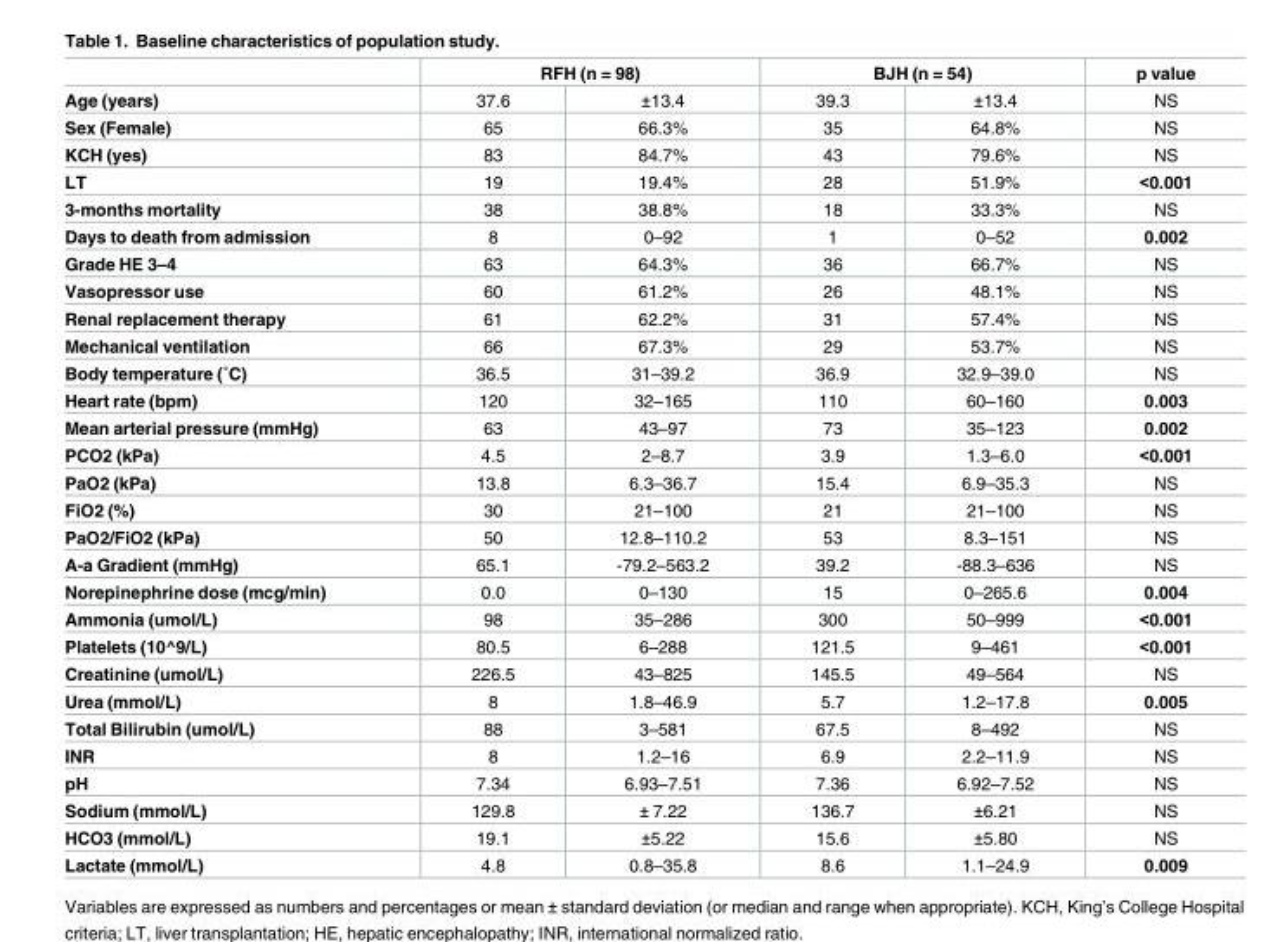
<table><thead><tr><td rowspan="2">Age (years)</td><td colspan="2">RFH (n = 98)</td><td colspan="2">BJH (n = 54)</td><td rowspan="2">p value NS</td></tr><tr><td>37.6</td><td>±13.4</td><td>39.3</td><td>±13.4</td></tr></thead><tbody><tr><td>Sex (Female)</td><td>65</td><td>66.3%</td><td>35</td><td>64.8%</td><td>NS</td></tr><tr><td>KCH (yes)</td><td>83</td><td>84.7%</td><td>43</td><td>79.6%</td><td>NS</td></tr><tr><td>LT</td><td>19</td><td>19.4%</td><td>28</td><td>51.9%</td><td>&lt;0.001</td></tr><tr><td>3-months mortality</td><td>38</td><td>38.8%</td><td>18</td><td>33.3%</td><td>NS</td></tr><tr><td>Days to death from admission</td><td>8</td><td>0–92</td><td>1</td><td>0–52</td><td>0.002</td></tr><tr><td>Grade HE 3–4</td><td>63</td><td>64.3%</td><td>36</td><td>66.7%</td><td>NS</td></tr><tr><td>Vasopressor use</td><td>60</td><td>61.2%</td><td>26</td><td>48.1%</td><td>NS</td></tr><tr><td>Renal replacement therapy</td><td>61</td><td>62.2%</td><td>31</td><td>57.4%</td><td>NS</td></tr><tr><td>Mechanical ventilation</td><td>66</td><td>67.3%</td><td>29</td><td>53.7%</td><td>NS</td></tr><tr><td>Body temperature (˚C)</td><td>36.5</td><td>31–39.2</td><td>36.9</td><td>32.9–39.0</td><td>NS</td></tr><tr><td>Heart rate (bpm)</td><td>120</td><td>32–165</td><td>110</td><td>60–160</td><td>0.003</td></tr><tr><td>Mean arterial pressure (mmHg)</td><td>63</td><td>43–97</td><td>73</td><td>35–123</td><td>0.002</td></tr><tr><td>PCO2 (kPa)</td><td>4.5</td><td>2–8.7</td><td>3.9</td><td>1.3–6.0</td><td>&lt;0.001</td></tr><tr><td>PaO2 (kPa)</td><td>13.8</td><td>6.3–36.7</td><td>15.4</td><td>6.9–35.3</td><td>NS</td></tr><tr><td>FiO2 (%)</td><td>30</td><td>21–100</td><td>21</td><td>21–100</td><td>NS</td></tr><tr><td>PaO2/FiO2 (kPa)</td><td>50</td><td>12.8–110.2</td><td>53</td><td>8.3–151</td><td>NS</td></tr><tr><td>A-a Gradient (mmHg)</td><td>65.1</td><td>-79.2–563.2</td><td>39.2</td><td>-88.3–636</td><td>NS</td></tr><tr><td>Norepinephrine dose (mcg/min)</td><td>0.0</td><td>0–130</td><td>15</td><td>0–265.6</td><td>0.004</td></tr><tr><td>Ammonia (umol/L)</td><td>98</td><td>35–286</td><td>300</td><td>50–999</td><td>&lt;0.001</td></tr><tr><td>Platelets (10^9/L)</td><td>80.5</td><td>6–288</td><td>121.5</td><td>9–461</td><td>&lt;0.001</td></tr><tr><td>Creatinine (umol/L)</td><td>226.5</td><td>43–825</td><td>145.5</td><td>49–564</td><td>NS</td></tr><tr><td>Urea (mmol/L)</td><td>8</td><td>1.8–46.9</td><td>5.7</td><td>1.2–17.8</td><td>0.005</td></tr><tr><td>Total Bilirubin (umol/L)</td><td>88</td><td>3–581</td><td>67.5</td><td>8–492</td><td>NS</td></tr><tr><td>INR</td><td>8</td><td>1.2–16</td><td>6.9</td><td>2.2–11.9</td><td>NS</td></tr><tr><td>pH</td><td>7.34</td><td>6.93–7.51</td><td>7.36</td><td>6.92–7.52</td><td>NS</td></tr><tr><td>Sodium (mmol/L)</td><td>129.8</td><td>± 7.22</td><td>136.7</td><td>±6.21</td><td>NS</td></tr><tr><td>HCO3 (mmol/L)</td><td>19.1</td><td>±5.22</td><td>15.6</td><td>±5.80</td><td>NS</td></tr><tr><td>Lactate (mmol/L)</td><td>4.8</td><td>0.8–35.8</td><td>8.6</td><td>1.1–24.9</td><td>0.009</td></tr></tbody></table>